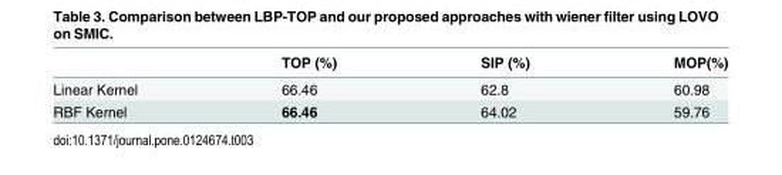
<table><thead><tr><td></td><td>TOP (%)</td><td>SIP (%)</td><td>MOP(%)</td></tr></thead><tbody><tr><td>Linear Kernel</td><td>66.46</td><td>62.8</td><td>60.98</td></tr><tr><td>RBF Kernel</td><td>66.46</td><td>64.02</td><td>59.76</td></tr></tbody></table>